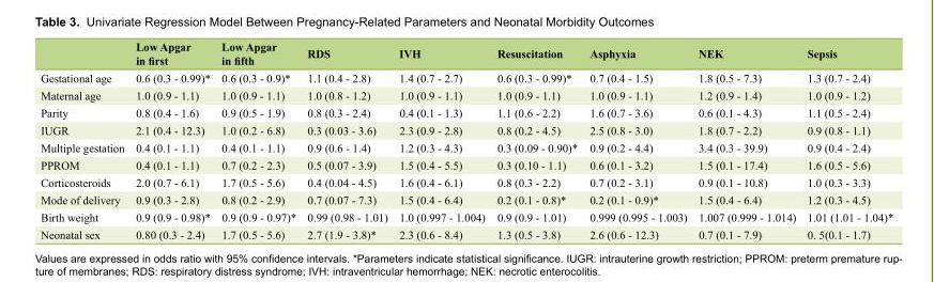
<table><thead><tr><td></td><td>Low Apgar in first</td><td>Low Apgar in fifth</td><td>RDS</td><td>IVH</td><td>Resuscitation</td><td>Asphyxia</td><td>NEK</td><td>Sepsis</td></tr></thead><tbody><tr><td>Gestational age</td><td>0.6 (0.3 - 0.99)*</td><td>0.6 (0.3 - 0.9)*</td><td>1.1 (0.4 - 2.8)</td><td>1.4 (0.7 - 2.7)</td><td>0.6 (0.3 - 0.99)*</td><td>0.7 (0.4 - 1.5)</td><td>1.8 (0.5 - 7.3)</td><td>1.3 (0.7 - 2.4)</td></tr><tr><td>Maternal age</td><td>1.0 (0.9 - 1.1)</td><td>1.0 (0.9 - 1.1)</td><td>1.0 (0.8 - 1.2)</td><td>1.0 (0.9 - 1.1)</td><td>1.0 (0.9 - 1.1)</td><td>1.0 (0.9 - 1.1)</td><td>1.2 (0.9 - 1.4)</td><td>1.0 (0.9 - 1.2)</td></tr><tr><td>Parity</td><td>0.8 (0.4 - 1.6)</td><td>0.9 (0.5 - 1.9)</td><td>0.8 (0.3 - 2.4)</td><td>0.4 (0.1 - 1.3)</td><td>1.1 (0.6 - 2.2)</td><td>1.6 (0.7 - 3.6)</td><td>0.6 (0.1 - 4.3)</td><td>1.1 (0.5 - 2.4)</td></tr><tr><td>IUGR</td><td>2.1 (0.4 - 12.3)</td><td>1.0 (0.2 - 6.8)</td><td>0.3 (0.03 - 3.6)</td><td>2.3 (0.9 - 2.8)</td><td>0.8 (0.2 - 4.5)</td><td>2.5 (0.8 - 3.0)</td><td>1.8 (0.7 - 2.2)</td><td>0.9 (0.8 - 1.1)</td></tr><tr><td>Multiple gestation</td><td>0.4 (0.1 - 1.1)</td><td>0.4 (0.1 - 1.1)</td><td>0.9 (0.6 - 1.4)</td><td>1.2 (0.3 - 4.3)</td><td>0.3 (0.09 - 0.90)*</td><td>0.9 (0.2 - 4.4)</td><td>3.4 (0.3 - 39.9)</td><td>0.9 (0.4 - 2.4)</td></tr><tr><td>PPROM</td><td>0.4 (0.1 - 1.1)</td><td>0.7 (0.2 - 2.3)</td><td>0.5 (0.07 - 3.9)</td><td>1.5 (0.4 - 5.5)</td><td>0.3 (0.10 - 1.1)</td><td>0.6 (0.1 - 3.2)</td><td>1.5 (0.1 - 17.4)</td><td>1.6 (0.5 - 5.6)</td></tr><tr><td>Corticosteroids</td><td>2.0 (0.7 - 6.1)</td><td>1.7 (0.5 - 5.6)</td><td>0.4 (0.04 - 4.5)</td><td>1.6 (0.4 - 6.1)</td><td>0.8 (0.3 - 2.2)</td><td>0.7 (0.2 - 3.1)</td><td>0.9 (0.1 - 10.8)</td><td>1.0 (0.3 - 3.3)</td></tr><tr><td>Mode of delivery</td><td>0.9 (0.3 - 2.8)</td><td>0.8 (0.2 - 2.9)</td><td>0.7 (0.07 - 7.3)</td><td>1.5 (0.4 - 6.4)</td><td>0.2 (0.1 - 0.8)*</td><td>0.2 (0.1 - 0.9)*</td><td>1.5 (0.4 - 6.4)</td><td>1.2 (0.3 - 4.5)</td></tr><tr><td>Birth weight</td><td>0.9 (0.9 - 0.98)*</td><td>0.9 (0.9 - 0.97)*</td><td>0.99 (0.98 - 1.01)</td><td>1.0 (0.997 - 1.004)</td><td>0.9 (0.9 - 1.01)</td><td>0.999 (0.995 - 1.003)</td><td>1.007 (0.999 - 1.014)</td><td>1.01 (1.01 - 1.04)*</td></tr><tr><td>Neonatal sex</td><td>0.80 (0.3 - 2.4)</td><td>1.7 (0.5 - 5.6)</td><td>2.7 (1.9 - 3.8)*</td><td>2.3 (0.6 - 8.4)</td><td>1.3 (0.5 - 3.8)</td><td>2.6 (0.6 - 12.3)</td><td>0.7 (0.1 - 7.9)</td><td>0. 5(0.1 - 1.7)</td></tr></tbody></table>